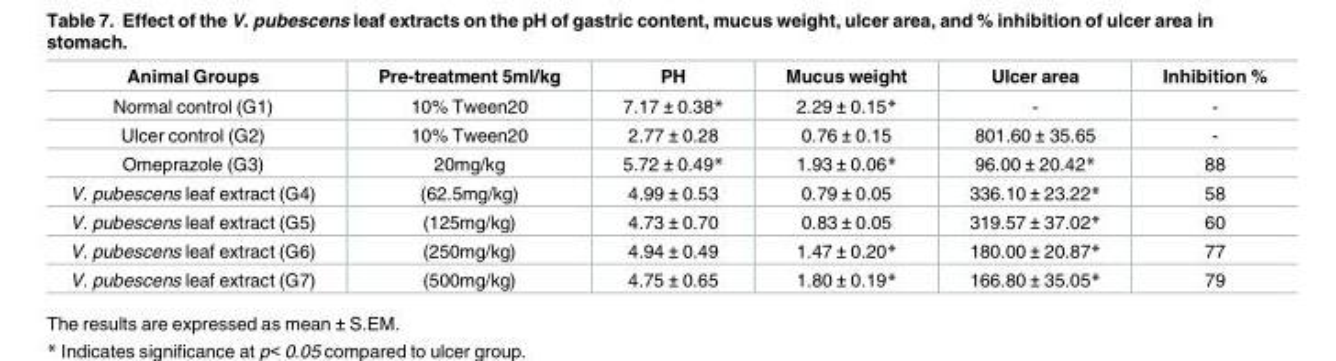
<table><thead><tr><td>Animal Groups</td><td>Pre-treatment 5ml/kg</td><td>PH</td><td>Mucus weight</td><td>Ulcer area</td><td>Inhibition %</td></tr></thead><tbody><tr><td>Normal control (G1)</td><td>10% Tween20</td><td>7.17 ± 0.38*</td><td>2.29 ± 0.15*</td><td>-</td><td>-</td></tr><tr><td>Ulcer control (G2)</td><td>10% Tween20</td><td>2.77 ± 0.28</td><td>0.76 ± 0.15</td><td>801.60 ± 35.65</td><td>-</td></tr><tr><td>Omeprazole (G3)</td><td>20mg/kg</td><td>5.72 ± 0.49*</td><td>1.93 ± 0.06*</td><td>96.00 ± 20.42*</td><td>88</td></tr><tr><td>V. pubescens leaf extract (G4)</td><td>(62.5mg/kg)</td><td>4.99 ± 0.53</td><td>0.79 ± 0.05</td><td>336.10 ± 23.22*</td><td>58</td></tr><tr><td>V. pubescens leaf extract (G5)</td><td>(125mg/kg)</td><td>4.73 ± 0.70</td><td>0.83 ± 0.05</td><td>319.57 ± 37.02*</td><td>60</td></tr><tr><td>V. pubescens leaf extract (G6)</td><td>(250mg/kg)</td><td>4.94 ± 0.49</td><td>1.47 ± 0.20*</td><td>180.00 ± 20.87*</td><td>77</td></tr><tr><td>V. pubescens leaf extract (G7)</td><td>(500mg/kg)</td><td>4.75 ± 0.65</td><td>1.80 ± 0.19*</td><td>166.80 ± 35.05*</td><td>79</td></tr></tbody></table>